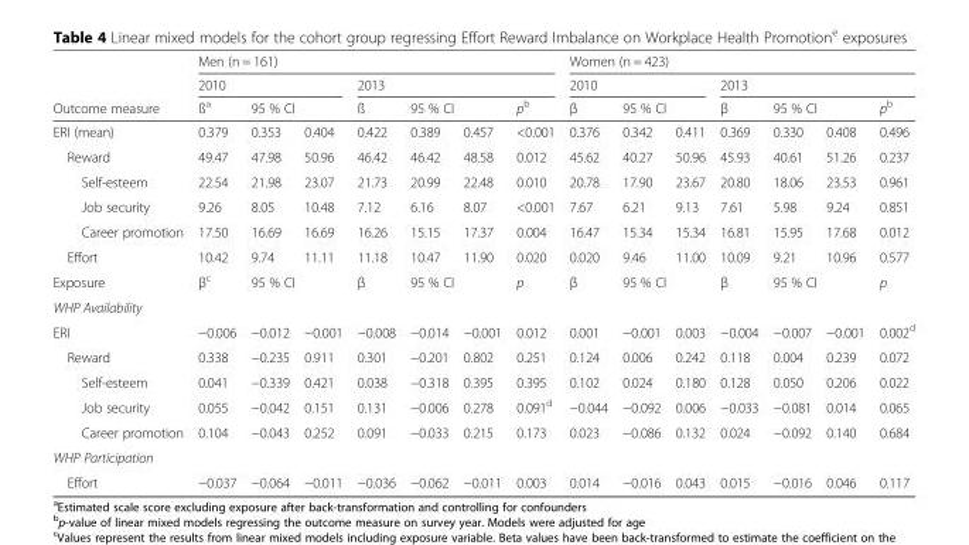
<table><thead><tr><td rowspan="4">Outcome measure ERI (mean)</td><td colspan="7">Men (n = 161)</td><td colspan="7">Women (n = 423)</td></tr><tr><td colspan="3">2010</td><td colspan="4">2013</td><td colspan="3">2010</td><td colspan="4">2013</td></tr><tr><td rowspan="2">ß<sup>a</sup> 0.379</td><td colspan="2">95 % CI</td><td rowspan="2">ß 0.422</td><td colspan="2">95 % CI</td><td rowspan="2">p<sup>b</sup> &lt;0.001</td><td rowspan="2">β 0.376</td><td colspan="2">95 % CI</td><td rowspan="2">β 0.369</td><td colspan="2">95 % CI</td><td rowspan="2">p<sup>b</sup> 0.496</td></tr><tr><td>0.353</td><td>0.404</td><td>0.389</td><td>0.457</td><td>0.342</td><td>0.411</td><td>0.330</td><td>0.408</td></tr></thead><tbody><tr><td>Reward</td><td>49.47</td><td>47.98</td><td>50.96</td><td>46.42</td><td>46.42</td><td>48.58</td><td>0.012</td><td>45.62</td><td>40.27</td><td>50.96</td><td>45.93</td><td>40.61</td><td>51.26</td><td>0.237</td></tr><tr><td>Self-esteem</td><td>22.54</td><td>21.98</td><td>23.07</td><td>21.73</td><td>20.99</td><td>22.48</td><td>0.010</td><td>20.78</td><td>17.90</td><td>23.67</td><td>20.80</td><td>18.06</td><td>23.53</td><td>0.961</td></tr><tr><td>Job security</td><td>9.26</td><td>8.05</td><td>10.48</td><td>7.12</td><td>6.16</td><td>8.07</td><td>&lt;0.001</td><td>7.67</td><td>6.21</td><td>9.13</td><td>7.61</td><td>5.98</td><td>9.24</td><td>0.851</td></tr><tr><td>Career promotion</td><td>17.50</td><td>16.69</td><td>16.69</td><td>16.26</td><td>15.15</td><td>17.37</td><td>0.004</td><td>16.47</td><td>15.34</td><td>15.34</td><td>16.81</td><td>15.95</td><td>17.68</td><td>0.012</td></tr><tr><td>Effort</td><td>10.42</td><td>9.74</td><td>11.11</td><td>11.18</td><td>10.47</td><td>11.90</td><td>0.020</td><td>0.020</td><td>9.46</td><td>11.00</td><td>10.09</td><td>9.21</td><td>10.96</td><td>0.577</td></tr><tr><td>Exposure</td><td>β<sup>c</sup></td><td colspan="2">95 % CI</td><td>β</td><td colspan="2">95 % CI</td><td>p</td><td>β</td><td colspan="2">95 % CI</td><td>β</td><td colspan="2">95 % CI</td><td>p</td></tr><tr><td colspan="15">WHP Availability</td></tr><tr><td>ERI</td><td>−0.006</td><td>−0.012</td><td>−0.001</td><td>−0.008</td><td>−0.014</td><td>−0.001</td><td>0.012</td><td>0.001</td><td>−0.001</td><td>0.003</td><td>−0.004</td><td>−0.007</td><td>−0.001</td><td>0.002<sup>d</sup></td></tr><tr><td>Reward</td><td>0.338</td><td>−0.235</td><td>0.911</td><td>0.301</td><td>−0.201</td><td>0.802</td><td>0.251</td><td>0.124</td><td>0.006</td><td>0.242</td><td>0.118</td><td>0.004</td><td>0.239</td><td>0.072</td></tr><tr><td>Self-esteem</td><td>0.041</td><td>−0.339</td><td>0.421</td><td>0.038</td><td>−0.318</td><td>0.395</td><td>0.395</td><td>0.102</td><td>0.024</td><td>0.180</td><td>0.128</td><td>0.050</td><td>0.206</td><td>0.022</td></tr><tr><td>Job security</td><td>0.055</td><td>−0.042</td><td>0.151</td><td>0.131</td><td>−0.006</td><td>0.278</td><td>0.091<sup>d</sup></td><td>−0.044</td><td>−0.092</td><td>0.006</td><td>−0.033</td><td>−0.081</td><td>0.014</td><td>0.065</td></tr><tr><td>Career promotion</td><td>0.104</td><td>−0.043</td><td>0.252</td><td>0.091</td><td>−0.033</td><td>0.215</td><td>0.173</td><td>0.023</td><td>−0.086</td><td>0.132</td><td>0.024</td><td>−0.092</td><td>0.140</td><td>0.684</td></tr><tr><td colspan="15">WHP Participation</td></tr><tr><td>Effort</td><td>−0.037</td><td>−0.064</td><td>−0.011</td><td>−0.036</td><td>−0.062</td><td>−0.011</td><td>0.003</td><td>0.014</td><td>−0.016</td><td>0.043</td><td>0.015</td><td>−0.016</td><td>0.046</td><td>0.117</td></tr></tbody></table>